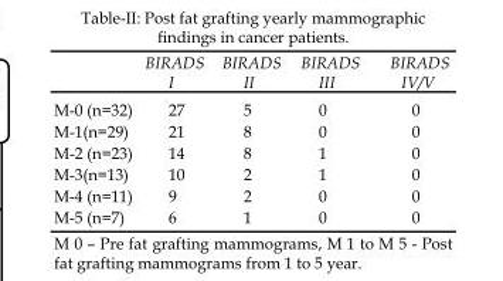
<table><thead><tr><td></td><td>BIRADS I</td><td>BIRADS II</td><td>BIRADS III</td><td>BIRADS IV/V</td></tr></thead><tbody><tr><td>M-0 (n=32)</td><td>27</td><td>5</td><td>0</td><td>0</td></tr><tr><td>M-1(n=29)</td><td>21</td><td>8</td><td>0</td><td>0</td></tr><tr><td>M-2 (n=23)</td><td>14</td><td>8</td><td>1</td><td>0</td></tr><tr><td>M-3(n=13)</td><td>10</td><td>2</td><td>1</td><td>0</td></tr><tr><td>M-4 (n=11)</td><td>9</td><td>2</td><td>0</td><td>0</td></tr><tr><td>M-5 (n=7)</td><td>6</td><td>1</td><td>0</td><td>0</td></tr></tbody></table>